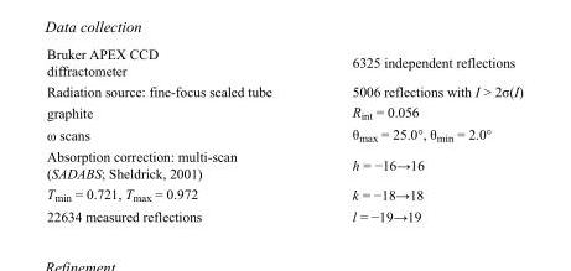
<table><tbody><tr><td>Bruker APEX CCD diffractometer</td><td>6325 independent reflections</td></tr><tr><td>Radiation source: fine-focus sealed tube</td><td>5006 reflections with I &gt; 2σ(I)</td></tr><tr><td>graphite</td><td>R<sub>int</sub> = 0.056</td></tr><tr><td>ω scans</td><td>θ<sub>max</sub> = 25.0°, θ<sub>min</sub> = 2.0°</td></tr><tr><td>Absorption correction: multi-scan (SADABS; Sheldrick, 2001)</td><td>h = −16→16</td></tr><tr><td>T<sub>min</sub> = 0.721, T<sub>max</sub> = 0.972</td><td>k = −18→18</td></tr><tr><td>22634 measured reflections</td><td>l = −19→19</td></tr></tbody></table>